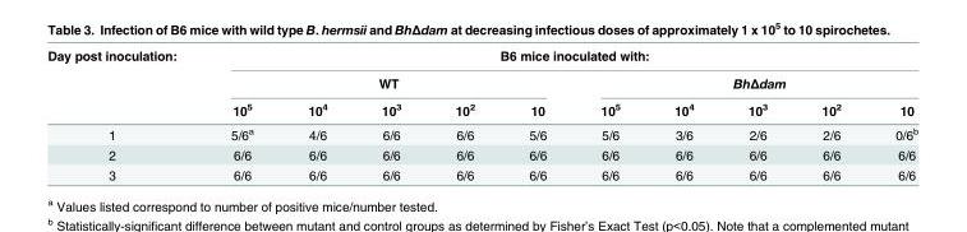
<table><thead><tr><td rowspan="3">Day post inoculation:</td><td colspan="10">B6 mice inoculated with:</td></tr><tr><td colspan="5">WT</td><td colspan="5">BhΔdam</td></tr><tr><td>10<sup>5</sup></td><td>10<sup>4</sup></td><td>10<sup>3</sup></td><td>10<sup>2</sup></td><td>10</td><td>10<sup>5</sup></td><td>10<sup>4</sup></td><td>10<sup>3</sup></td><td>10<sup>2</sup></td><td>10</td></tr></thead><tbody><tr><td>1</td><td>5/6<sup>a</sup></td><td>4/6</td><td>6/6</td><td>6/6</td><td>5/6</td><td>5/6</td><td>3/6</td><td>2/6</td><td>2/6</td><td>0/6<sup>b</sup></td></tr><tr><td>2</td><td>6/6</td><td>6/6</td><td>6/6</td><td>6/6</td><td>6/6</td><td>6/6</td><td>6/6</td><td>6/6</td><td>6/6</td><td>6/6</td></tr><tr><td>3</td><td>6/6</td><td>6/6</td><td>6/6</td><td>6/6</td><td>6/6</td><td>6/6</td><td>6/6</td><td>6/6</td><td>6/6</td><td>6/6</td></tr></tbody></table>